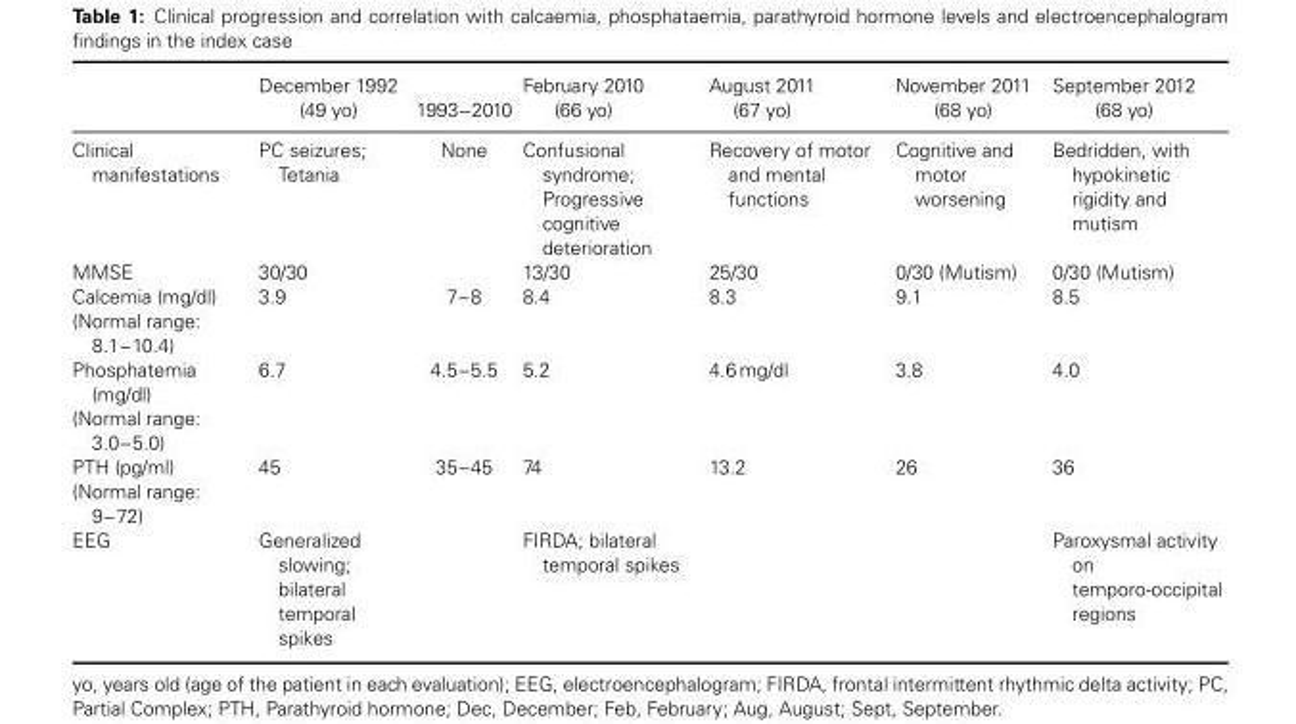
<table><thead><tr><td></td><td>December 1992 (49 yo)</td><td>1993–2010</td><td>February 2010 (66 yo)</td><td>August 2011 (67 yo)</td><td>November 2011 (68 yo)</td><td>September 2012 (68 yo)</td></tr></thead><tbody><tr><td>Clinical manifestations</td><td>PC seizures; Tetania</td><td>None</td><td>Confusional syndrome; Progressive cognitive deterioration</td><td>Recovery of motor and mental functions</td><td>Cognitive and motor worsening</td><td>Bedridden, with hypokinetic rigidity and mutism</td></tr><tr><td>MMSE</td><td>30/30</td><td></td><td>13/30</td><td>25/30</td><td>0/30 (Mutism)</td><td>0/30 (Mutism)</td></tr><tr><td>Calcemia (mg/dl) (Normal range: 8.1–10.4)</td><td>3.9</td><td>7–8</td><td>8.4</td><td>8.3</td><td>9.1</td><td>8.5</td></tr><tr><td>Phosphatemia (mg/dl) (Normal range: 3.0–5.0)</td><td>6.7</td><td>4.5–5.5</td><td>5.2</td><td>4.6 mg/dl</td><td>3.8</td><td>4.0</td></tr><tr><td>PTH (pg/ml) (Normal range: 9–72)</td><td>45</td><td>35–45</td><td>74</td><td>13.2</td><td>26</td><td>36</td></tr><tr><td>EEG</td><td>Generalized slowing; bilateral temporal spikes</td><td></td><td>FIRDA; bilateral temporal spikes</td><td></td><td></td><td>Paroxysmal activity on temporo-occipital regions</td></tr></tbody></table>